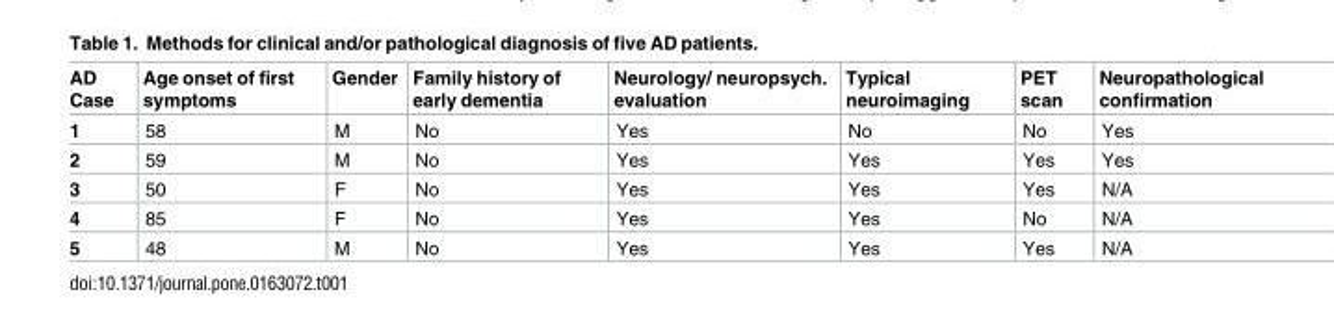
<table><thead><tr><td>AD Case</td><td>Age onset of first symptoms</td><td>Gender</td><td>Family history of early dementia</td><td>Neurology/ neuropsych. evaluation</td><td>Typical neuroimaging</td><td>PET scan</td><td>Neuropathological confirmation</td></tr></thead><tbody><tr><td>1</td><td>58</td><td>M</td><td>No</td><td>Yes</td><td>No</td><td>No</td><td>Yes</td></tr><tr><td>2</td><td>59</td><td>M</td><td>No</td><td>Yes</td><td>Yes</td><td>Yes</td><td>Yes</td></tr><tr><td>3</td><td>50</td><td>F</td><td>No</td><td>Yes</td><td>Yes</td><td>Yes</td><td>N/A</td></tr><tr><td>4</td><td>85</td><td>F</td><td>No</td><td>Yes</td><td>Yes</td><td>No</td><td>N/A</td></tr><tr><td>5</td><td>48</td><td>M</td><td>No</td><td>Yes</td><td>Yes</td><td>Yes</td><td>N/A</td></tr></tbody></table>